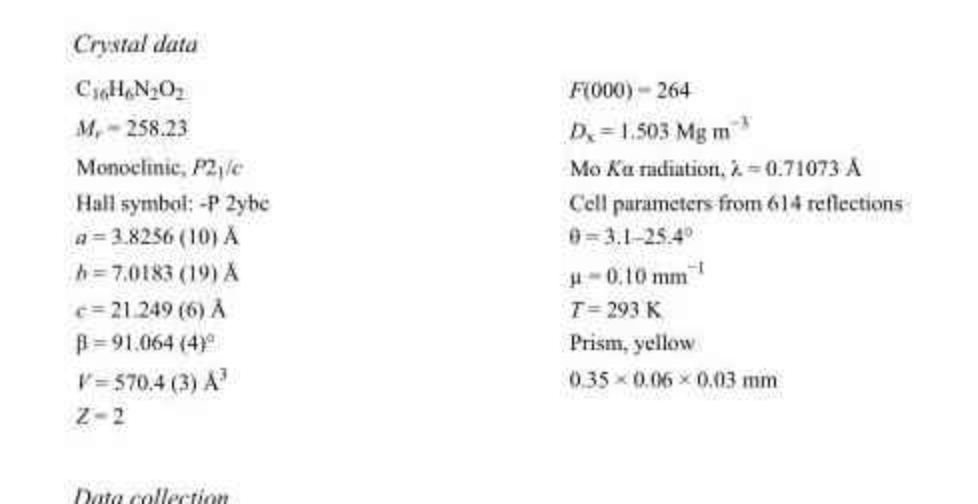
<table><tbody><tr><td>C<sub>16</sub>H<sub>6</sub>N<sub>2</sub>O<sub>2</sub></td><td>F(000) = 264</td></tr><tr><td>M<sub>r</sub> = 258.23</td><td>D<sub>x</sub> = 1.503 Mg m<sup>−3</sup></td></tr><tr><td>Monoclinic, P2<sub>1</sub>/c</td><td>Mo Kα radiation, λ = 0.71073 Å</td></tr><tr><td>Hall symbol: -P 2ybc</td><td>Cell parameters from 614 reflections</td></tr><tr><td>a = 3.8256 (10) Å</td><td>θ = 3.1–25.4°</td></tr><tr><td>b = 7.0183 (19) Å</td><td>µ = 0.10 mm<sup>−1</sup></td></tr><tr><td>c = 21.249 (6) Å</td><td>T = 293 K</td></tr><tr><td>β = 91.064 (4)°</td><td>Prism, yellow</td></tr><tr><td>V = 570.4 (3) Å<sup>3</sup></td><td>0.35 × 0.06 × 0.03 mm</td></tr><tr><td>Z = 2</td><td></td></tr></tbody></table>